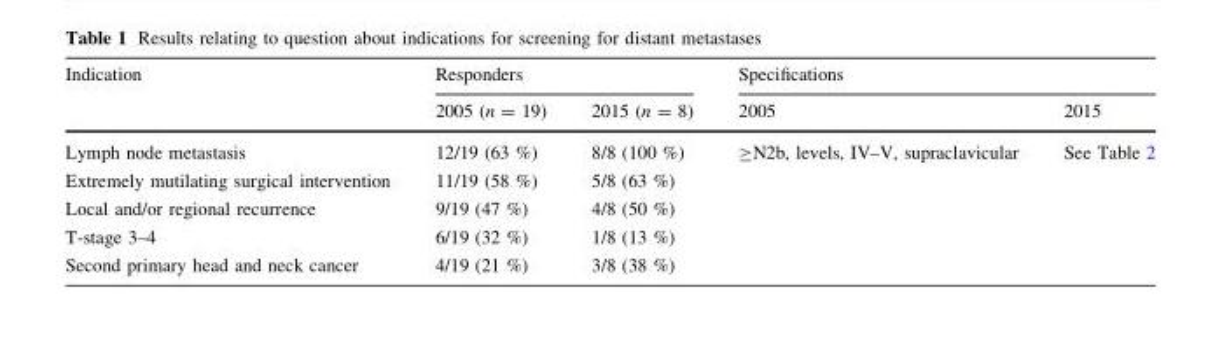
<table><thead><tr><td rowspan="2">Indication</td><td colspan="2">Responders</td><td colspan="2">Specifications</td></tr><tr><td>2005 (n = 19)</td><td>2015 (n = 8)</td><td>2005</td><td>2015</td></tr></thead><tbody><tr><td>Lymph node metastasis</td><td>12/19 (63 %)</td><td>8/8 (100 %)</td><td>≥N2b, levels, IV–V, supraclavicular</td><td>See Table 2</td></tr><tr><td>Extremely mutilating surgical intervention</td><td>11/19 (58 %)</td><td>5/8 (63 %)</td><td></td><td></td></tr><tr><td>Local and/or regional recurrence</td><td>9/19 (47 %)</td><td>4/8 (50 %)</td><td></td><td></td></tr><tr><td>T-stage 3–4</td><td>6/19 (32 %)</td><td>1/8 (13 %)</td><td></td><td></td></tr><tr><td>Second primary head and neck cancer</td><td>4/19 (21 %)</td><td>3/8 (38 %)</td><td></td><td></td></tr></tbody></table>